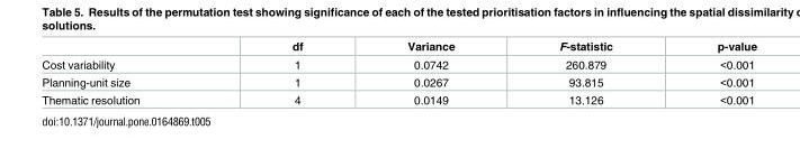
<table><thead><tr><td></td><td>df</td><td>Variance</td><td>F-statistic</td><td>p-value</td></tr></thead><tbody><tr><td>Cost variability</td><td>1</td><td>0.0742</td><td>260.879</td><td>&lt;0.001</td></tr><tr><td>Planning-unit size</td><td>1</td><td>0.0267</td><td>93.815</td><td>&lt;0.001</td></tr><tr><td>Thematic resolution</td><td>4</td><td>0.0149</td><td>13.126</td><td>&lt;0.001</td></tr></tbody></table>